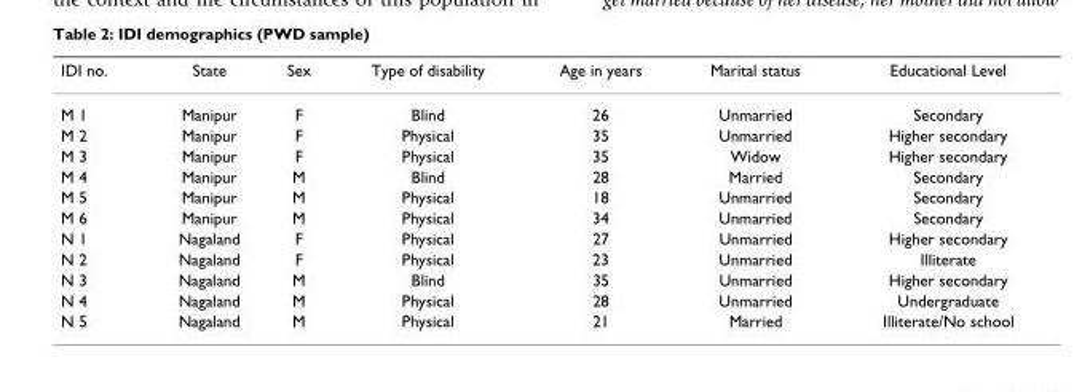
<table><thead><tr><td>IDI no.</td><td>State</td><td>Sex</td><td>Type of disability</td><td>Age in years</td><td>Marital status</td><td>Educational Level</td></tr></thead><tbody><tr><td>M 1</td><td>Manipur</td><td>F</td><td>Blind</td><td>26</td><td>Unmarried</td><td>Secondary</td></tr><tr><td>M 2</td><td>Manipur</td><td>F</td><td>Physical</td><td>35</td><td>Unmarried</td><td>Higher secondary</td></tr><tr><td>M 3</td><td>Manipur</td><td>F</td><td>Physical</td><td>35</td><td>Widow</td><td>Higher secondary</td></tr><tr><td>M 4</td><td>Manipur</td><td>M</td><td>Blind</td><td>28</td><td>Married</td><td>Secondary</td></tr><tr><td>M 5</td><td>Manipur</td><td>M</td><td>Physical</td><td>18</td><td>Unmarried</td><td>Secondary</td></tr><tr><td>M 6</td><td>Manipur</td><td>M</td><td>Physical</td><td>34</td><td>Unmarried</td><td>Secondary</td></tr><tr><td>N 1</td><td>Nagaland</td><td>F</td><td>Physical</td><td>27</td><td>Unmarried</td><td>Higher secondary</td></tr><tr><td>N 2</td><td>Nagaland</td><td>F</td><td>Physical</td><td>23</td><td>Unmarried</td><td>Illiterate</td></tr><tr><td>N 3</td><td>Nagaland</td><td>M</td><td>Blind</td><td>35</td><td>Unmarried</td><td>Higher secondary</td></tr><tr><td>N 4</td><td>Nagaland</td><td>M</td><td>Physical</td><td>28</td><td>Unmarried</td><td>Undergraduate</td></tr><tr><td>N 5</td><td>Nagaland</td><td>M</td><td>Physical</td><td>21</td><td>Married</td><td>Illiterate/No school</td></tr></tbody></table>